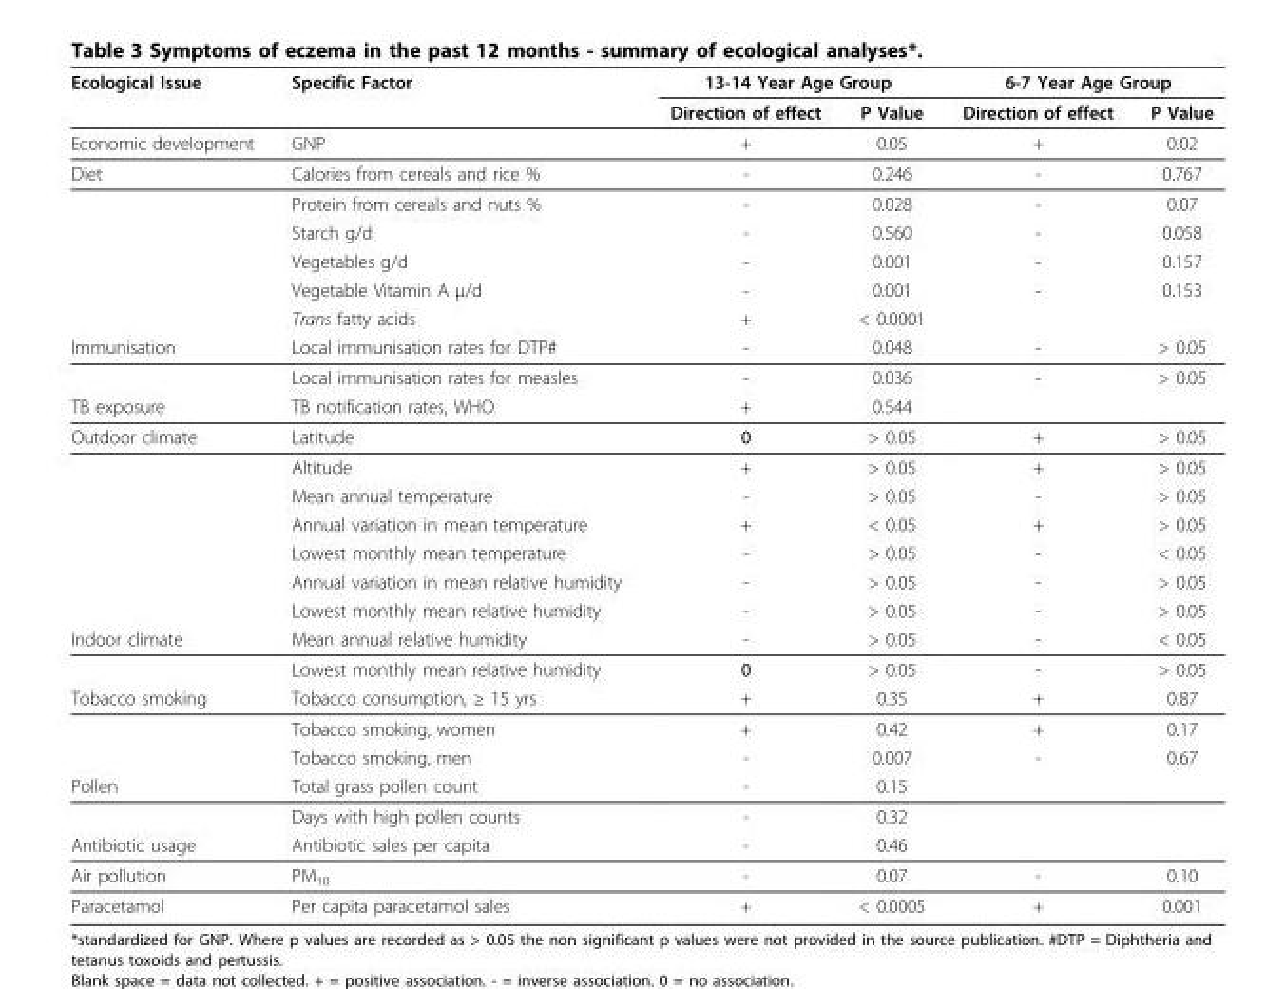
<table><thead><tr><td rowspan="2">Ecological Issue</td><td rowspan="2">Specific Factor</td><td colspan="2">13-14 Year Age Group</td><td colspan="2">6-7 Year Age Group</td></tr><tr><td>Direction of effect</td><td>P Value</td><td>Direction of effect</td><td>P Value</td></tr></thead><tbody><tr><td>Economic development</td><td>GNP</td><td>+</td><td>0.05</td><td>+</td><td>0.02</td></tr><tr><td rowspan="6">Diet</td><td>Calories from cereals and rice %</td><td>-</td><td>0.246</td><td>-</td><td>0.767</td></tr><tr><td>Protein from cereals and nuts %</td><td>-</td><td>0.028</td><td>-</td><td>0.07</td></tr><tr><td>Starch g/d</td><td>-</td><td>0.560</td><td>-</td><td>0.058</td></tr><tr><td>Vegetables g/d</td><td>-</td><td>0.001</td><td>-</td><td>0.157</td></tr><tr><td>Vegetable Vitamin A μ/d</td><td>-</td><td>0.001</td><td>-</td><td>0.153</td></tr><tr><td>Trans fatty acids</td><td>+</td><td>&lt; 0.0001</td><td></td><td></td></tr><tr><td rowspan="2">Immunisation</td><td>Local immunisation rates for DTP#</td><td>-</td><td>0.048</td><td>-</td><td>&gt; 0.05</td></tr><tr><td>Local immunisation rates for measles</td><td>-</td><td>0.036</td><td>-</td><td>&gt; 0.05</td></tr><tr><td>TB exposure</td><td>TB notification rates, WHO</td><td>+</td><td>0.544</td><td></td><td></td></tr><tr><td rowspan="7">Outdoor climate</td><td>Latitude</td><td>0</td><td>&gt; 0.05</td><td>+</td><td>&gt; 0.05</td></tr><tr><td>Altitude</td><td>+</td><td>&gt; 0.05</td><td>+</td><td>&gt; 0.05</td></tr><tr><td>Mean annual temperature</td><td>-</td><td>&gt; 0.05</td><td>-</td><td>&gt; 0.05</td></tr><tr><td>Annual variation in mean temperature</td><td>+</td><td>&lt; 0.05</td><td>+</td><td>&gt; 0.05</td></tr><tr><td>Lowest monthly mean temperature</td><td>-</td><td>&gt; 0.05</td><td>-</td><td>&lt; 0.05</td></tr><tr><td>Annual variation in mean relative humidity</td><td>-</td><td>&gt; 0.05</td><td>-</td><td>&gt; 0.05</td></tr><tr><td>Lowest monthly mean relative humidity</td><td>-</td><td>&gt; 0.05</td><td>-</td><td>&gt; 0.05</td></tr><tr><td rowspan="2">Indoor climate</td><td>Mean annual relative humidity</td><td>-</td><td>&gt; 0.05</td><td>-</td><td>&lt; 0.05</td></tr><tr><td>Lowest monthly mean relative humidity</td><td>0</td><td>&gt; 0.05</td><td>-</td><td>&gt; 0.05</td></tr><tr><td rowspan="3">Tobacco smoking</td><td>Tobacco consumption, ≥ 15 yrs</td><td>+</td><td>0.35</td><td>+</td><td>0.87</td></tr><tr><td>Tobacco smoking, women</td><td>+</td><td>0.42</td><td>+</td><td>0.17</td></tr><tr><td>Tobacco smoking, men</td><td>-</td><td>0.007</td><td>-</td><td>0.67</td></tr><tr><td rowspan="2">Pollen</td><td>Total grass pollen count</td><td>-</td><td>0.15</td><td></td><td></td></tr><tr><td>Days with high pollen counts</td><td>-</td><td>0.32</td><td></td><td></td></tr><tr><td>Antibiotic usage</td><td>Antibiotic sales per capita</td><td>-</td><td>0.46</td><td></td><td></td></tr><tr><td>Air pollution</td><td>PM10</td><td>-</td><td>0.07</td><td>-</td><td>0.10</td></tr><tr><td>Paracetamol</td><td>Per capita paracetamol sales</td><td>+</td><td>&lt; 0.0005</td><td>+</td><td>0.001</td></tr></tbody></table>